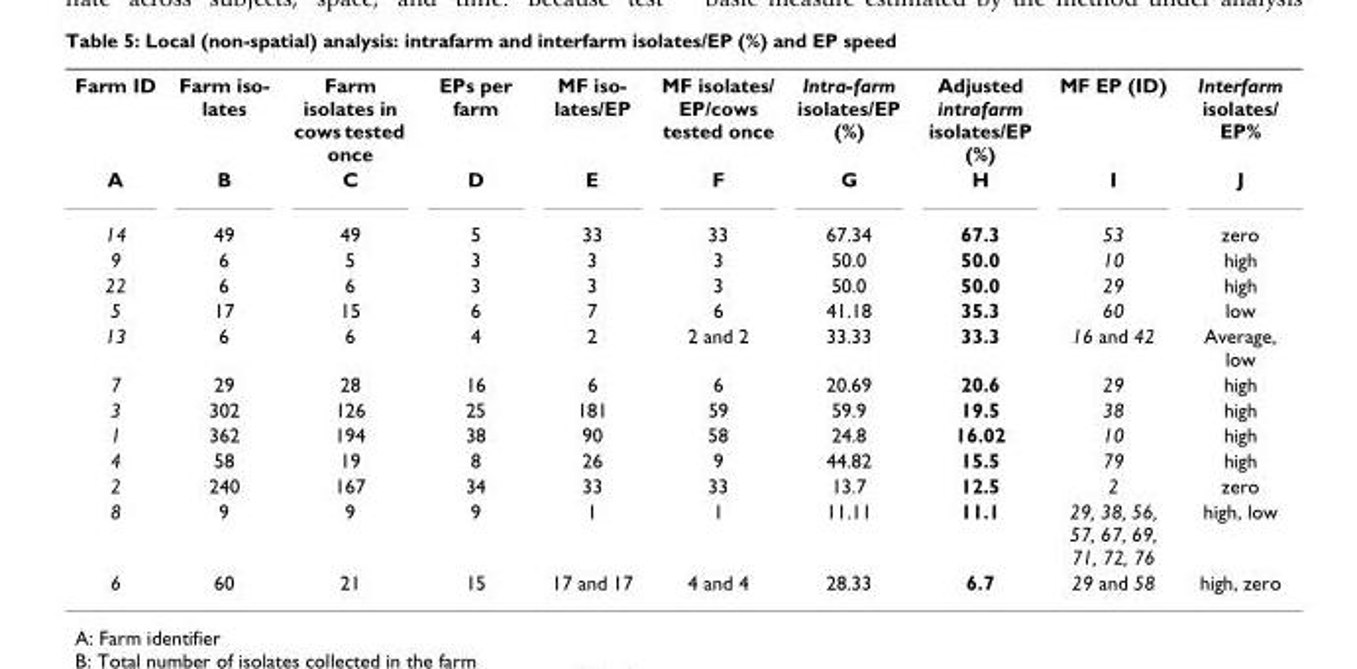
<table><tbody><tr><td>Farm ID</td><td>Farm iso- lates</td><td>Farm isolates in cows tested once</td><td>EPs per farm</td><td>MF iso- lates/EP</td><td>MF isolates/ EP/cows tested once</td><td>Intra-farm isolates/EP (%)</td><td>Adjusted intrafarm isolates/EP (%)</td><td>MF EP (ID)</td><td>Interfarm isolates/ EP%</td></tr><tr><td>A</td><td>B</td><td>C</td><td>D</td><td>E</td><td>F</td><td>G</td><td>H</td><td>I</td><td>J</td></tr><tr><td>14</td><td>49</td><td>49</td><td>5</td><td>33</td><td>33</td><td>67.34</td><td>67.3</td><td>53</td><td>zero</td></tr><tr><td>9</td><td>6</td><td>5</td><td>3</td><td>3</td><td>3</td><td>50.0</td><td>50.0</td><td>10</td><td>high</td></tr><tr><td>22</td><td>6</td><td>6</td><td>3</td><td>3</td><td>3</td><td>50.0</td><td>50.0</td><td>29</td><td>high</td></tr><tr><td>5</td><td>17</td><td>15</td><td>6</td><td>7</td><td>6</td><td>41.18</td><td>35.3</td><td>60</td><td>low</td></tr><tr><td>13</td><td>6</td><td>6</td><td>4</td><td>2</td><td>2 and 2</td><td>33.33</td><td>33.3</td><td>16 and 42</td><td>Average, low</td></tr><tr><td>7</td><td>29</td><td>28</td><td>16</td><td>6</td><td>6</td><td>20.69</td><td>20.6</td><td>29</td><td>high</td></tr><tr><td>3</td><td>302</td><td>126</td><td>25</td><td>181</td><td>59</td><td>59.9</td><td>19.5</td><td>38</td><td>high</td></tr><tr><td>1</td><td>362</td><td>194</td><td>38</td><td>90</td><td>58</td><td>24.8</td><td>16.02</td><td>10</td><td>high</td></tr><tr><td>4</td><td>58</td><td>19</td><td>8</td><td>26</td><td>9</td><td>44.82</td><td>15.5</td><td>79</td><td>high</td></tr><tr><td>2</td><td>240</td><td>167</td><td>34</td><td>33</td><td>33</td><td>13.7</td><td>12.5</td><td>2</td><td>zero</td></tr><tr><td>8</td><td>9</td><td>9</td><td>9</td><td>1</td><td>1</td><td>11.11</td><td>11.1</td><td>29, 38, 56, 57, 67, 69, 71, 72, 76</td><td>high, low</td></tr><tr><td>6</td><td>60</td><td>21</td><td>15</td><td>17 and 17</td><td>4 and 4</td><td>28.33</td><td>6.7</td><td>29 and 58</td><td>high, zero</td></tr></tbody></table>